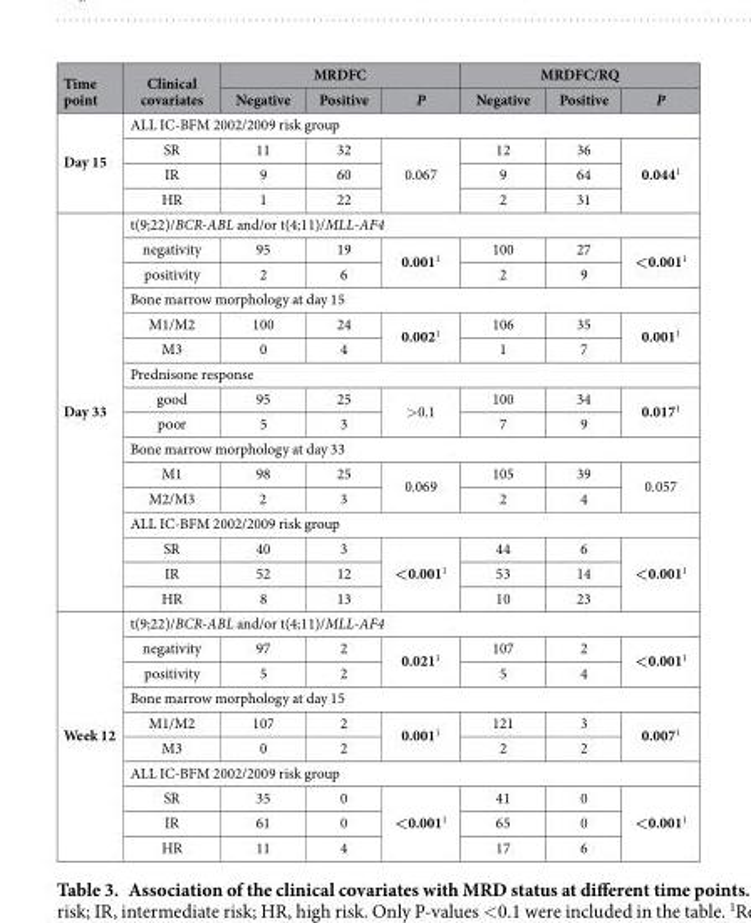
<table><thead><tr><td rowspan="2">Time point</td><td rowspan="2">Clinical covariates</td><td colspan="3">MRDFC</td><td colspan="3">MRDFC/RQ</td></tr><tr><td>Negative</td><td>Positive</td><td>P</td><td>Negative</td><td>Positive</td><td>P</td></tr></thead><tbody><tr><td rowspan="4">Day 15</td><td colspan="7">ALL IC-BFM 2002/2009 risk group</td></tr><tr><td>SR</td><td>11</td><td>32</td><td rowspan="3">0.067</td><td>12</td><td>36</td><td rowspan="3">0.044<sup>1</sup></td></tr><tr><td>IR</td><td>9</td><td>60</td><td>9</td><td>64</td></tr><tr><td>HR</td><td>1</td><td>22</td><td>2</td><td>31</td></tr><tr><td rowspan="16">Day 33</td><td colspan="7">t(9;22)/BCR-ABL and/or t(4;11)/MLL-AF4</td></tr><tr><td>negativity</td><td>95</td><td>19</td><td rowspan="2">0.001<sup>1</sup></td><td>100</td><td>27</td><td rowspan="2">&lt;0.001<sup>1</sup></td></tr><tr><td>positivity</td><td>2</td><td>6</td><td>2</td><td>9</td></tr><tr><td colspan="7">Bone marrow morphology at day 15</td></tr><tr><td>M1/M2</td><td>100</td><td>24</td><td rowspan="2">0.002<sup>1</sup></td><td>106</td><td>35</td><td rowspan="2">0.001<sup>1</sup></td></tr><tr><td>M3</td><td>0</td><td>4</td><td>1</td><td>7</td></tr><tr><td colspan="7">Prednisone response</td></tr><tr><td>good</td><td>95</td><td>25</td><td rowspan="2">&gt; 0.1</td><td>100</td><td>34</td><td rowspan="2">0.017<sup>1</sup></td></tr><tr><td>poor</td><td>5</td><td>3</td><td>7</td><td>9</td></tr><tr><td colspan="7">Bone marrow morphology at day 33</td></tr><tr><td>M1</td><td>98</td><td>25</td><td rowspan="2">0.069</td><td>105</td><td>39</td><td rowspan="2">0.057</td></tr><tr><td>M2/M3</td><td>2</td><td>3</td><td>2</td><td>4</td></tr><tr><td colspan="7">ALL IC-BFM 2002/2009 risk group</td></tr><tr><td>SR</td><td>40</td><td>3</td><td rowspan="3">&lt;0.001<sup>1</sup></td><td>44</td><td>6</td><td rowspan="3">&lt;0.001<sup>1</sup></td></tr><tr><td>IR</td><td>52</td><td>12</td><td>53</td><td>14</td></tr><tr><td>HR</td><td>8</td><td>13</td><td>10</td><td>23</td></tr><tr><td rowspan="10">Week 12</td><td colspan="7">t(9;22)/BCR-ABL and/or t(4;11)/MLL-AF4</td></tr><tr><td>negativity</td><td>97</td><td>2</td><td rowspan="2">0.021<sup>1</sup></td><td>107</td><td>2</td><td rowspan="2">&lt;0.001<sup>1</sup></td></tr><tr><td>positivity</td><td>5</td><td>2</td><td>5</td><td>4</td></tr><tr><td colspan="7">Bone marrow morphology at day 15</td></tr><tr><td>M1/M2</td><td>107</td><td>2</td><td rowspan="2">0.001<sup>1</sup></td><td>121</td><td>3</td><td rowspan="2">0.007<sup>1</sup></td></tr><tr><td>M3</td><td>0</td><td>2</td><td>2</td><td>2</td></tr><tr><td colspan="7">ALL IC-BFM 2002/2009 risk group</td></tr><tr><td>SR</td><td>35</td><td>0</td><td rowspan="3">&lt;0.001<sup>1</sup></td><td>41</td><td>0</td><td rowspan="3">&lt;0.001<sup>1</sup></td></tr><tr><td>IR</td><td>61</td><td>0</td><td>65</td><td>0</td></tr><tr><td>HR</td><td>11</td><td>4</td><td>17</td><td>6</td></tr></tbody></table>